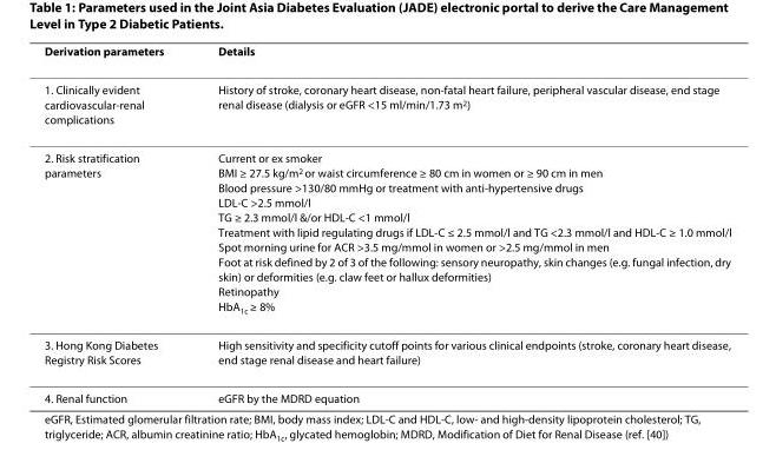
<table><thead><tr><td>Derivation parameters</td><td>Details</td></tr></thead><tbody><tr><td>1. Clinically evident cardiovascular-renal complications</td><td>History of stroke, coronary heart disease, non-fatal heart failure, peripheral vascular disease, end stage renal disease (dialysis or eGFR &lt;15 ml/min/1.73 m<sup>2</sup>)</td></tr><tr><td>2. Risk stratification parameters</td><td>Current or ex smoker BMI ≥ 27.5 kg/m<sup>2</sup> or waist circumference ≥ 80 cm in women or ≥ 90 cm in men Blood pressure &gt;130/80 mmHg or treatment with anti-hypertensive drugs LDL-C &gt;2.5 mmol/l TG ≥ 2.3 mmol/l &amp;/or HDL-C &lt;1 mmol/l Treatment with lipid regulating drugs if LDL-C ≤ 2.5 mmol/l and TG &lt;2.3 mmol/l and HDL-C ≥ 1.0 mmol/l Spot morning urine for ACR &gt;3.5 mg/mmol in women or &gt;2.5 mg/mmol in men Foot at risk defined by 2 of 3 of the following: sensory neuropathy, skin changes (e.g. fungal infection, dry skin) or deformities (e.g. claw feet or hallux deformities) Retinopathy HbA<sub>1c</sub> ≥ 8%</td></tr><tr><td>3. Hong Kong Diabetes Registry Risk Scores</td><td>High sensitivity and specificity cutoff points for various clinical endpoints (stroke, coronary heart disease, end stage renal disease and heart failure)</td></tr><tr><td>4. Renal function</td><td>eGFR by the MDRD equation</td></tr></tbody></table>